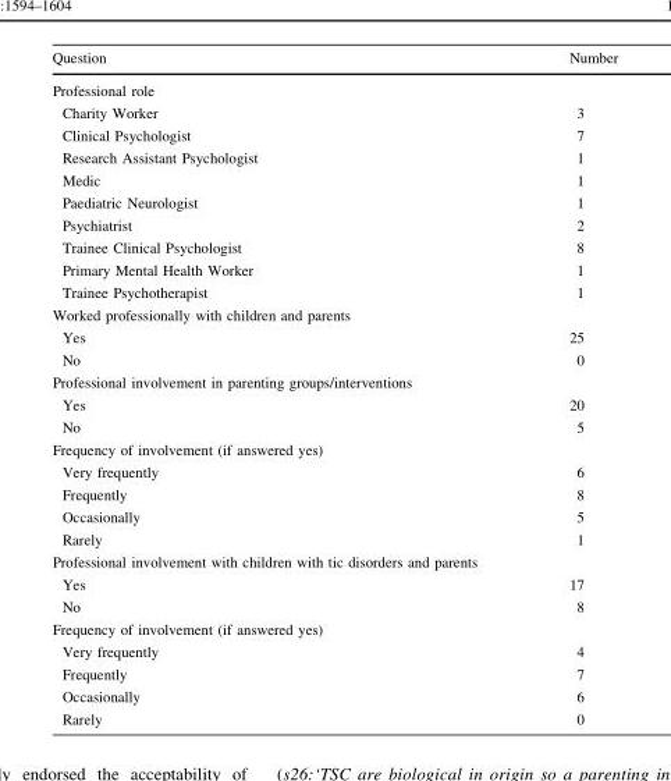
<table><thead><tr><td>Question</td><td>Number</td></tr></thead><tbody><tr><td colspan="2">Professional role</td></tr><tr><td>Charity Worker</td><td>3</td></tr><tr><td>Clinical Psychologist</td><td>7</td></tr><tr><td>Research Assistant Psychologist</td><td>1</td></tr><tr><td>Medic</td><td>1</td></tr><tr><td>Paediatric Neurologist</td><td>1</td></tr><tr><td>Psychiatrist</td><td>2</td></tr><tr><td>Trainee Clinical Psychologist</td><td>8</td></tr><tr><td>Primary Mental Health Worker</td><td>1</td></tr><tr><td>Trainee Psychotherapist</td><td>1</td></tr><tr><td colspan="2">Worked professionally with children and parents</td></tr><tr><td>Yes</td><td>25</td></tr><tr><td>No</td><td>0</td></tr><tr><td colspan="2">Professional involvement in parenting groups/interventions</td></tr><tr><td>Yes</td><td>20</td></tr><tr><td>No</td><td>5</td></tr><tr><td colspan="2">Frequency of involvement (if answered yes)</td></tr><tr><td>Very frequently</td><td>6</td></tr><tr><td>Frequently</td><td>8</td></tr><tr><td>Occasionally</td><td>5</td></tr><tr><td>Rarely</td><td>1</td></tr><tr><td colspan="2">Professional involvement with children with tic disorders and parents</td></tr><tr><td>Yes</td><td>17</td></tr><tr><td>No</td><td>8</td></tr><tr><td colspan="2">Frequency of involvement (if answered yes)</td></tr><tr><td>Very frequently</td><td>4</td></tr><tr><td>Frequently</td><td>7</td></tr><tr><td>Occasionally</td><td>6</td></tr><tr><td>Rarely</td><td>0</td></tr></tbody></table>